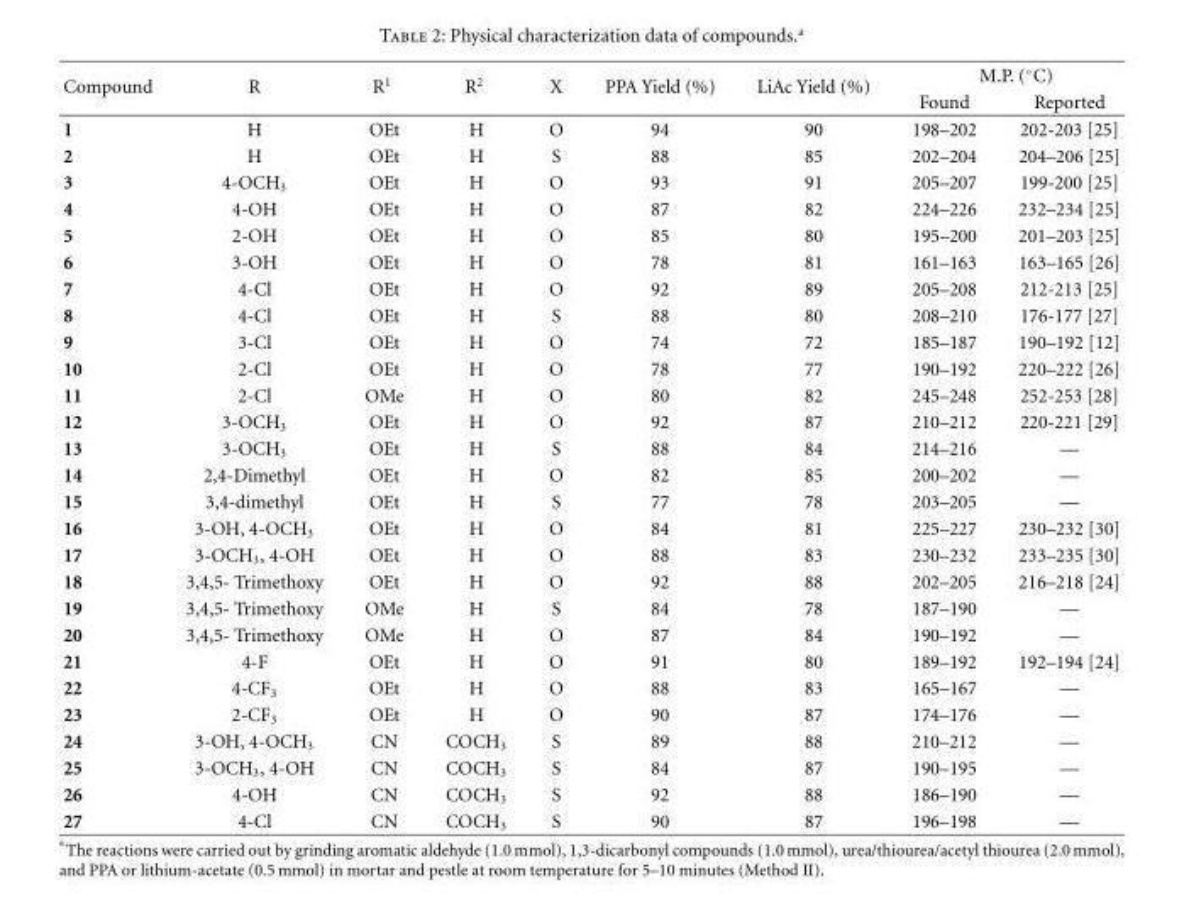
<table><thead><tr><td rowspan="2">Compound</td><td rowspan="2">R</td><td rowspan="2">R<sup>1</sup></td><td rowspan="2">R<sup>2</sup></td><td rowspan="2">X</td><td rowspan="2">PPA Yield (%)</td><td rowspan="2">LiAc Yield (%)</td><td colspan="2">M.P. (◦C)</td></tr><tr><td>Found</td><td>Reported</td></tr></thead><tbody><tr><td>1</td><td>H</td><td>OEt</td><td>H</td><td>O</td><td>94</td><td>90</td><td>198–202</td><td>202-203 [25]</td></tr><tr><td>2</td><td>H</td><td>OEt</td><td>H</td><td>S</td><td>88</td><td>85</td><td>202–204</td><td>204–206 [25]</td></tr><tr><td>3</td><td>4-OCH<sub>3</sub></td><td>OEt</td><td>H</td><td>O</td><td>93</td><td>91</td><td>205–207</td><td>199-200 [25]</td></tr><tr><td>4</td><td>4-OH</td><td>OEt</td><td>H</td><td>O</td><td>87</td><td>82</td><td>224–226</td><td>232–234 [25]</td></tr><tr><td>5</td><td>2-OH</td><td>OEt</td><td>H</td><td>O</td><td>85</td><td>80</td><td>195–200</td><td>201–203 [25]</td></tr><tr><td>6</td><td>3-OH</td><td>OEt</td><td>H</td><td>O</td><td>78</td><td>81</td><td>161–163</td><td>163–165 [26]</td></tr><tr><td>7</td><td>4-Cl</td><td>OEt</td><td>H</td><td>O</td><td>92</td><td>89</td><td>205–208</td><td>212-213 [25]</td></tr><tr><td>8</td><td>4-Cl</td><td>OEt</td><td>H</td><td>S</td><td>88</td><td>80</td><td>208–210</td><td>176-177 [27]</td></tr><tr><td>9</td><td>3-Cl</td><td>OEt</td><td>H</td><td>O</td><td>74</td><td>72</td><td>185–187</td><td>190–192 [12]</td></tr><tr><td>10</td><td>2-Cl</td><td>OEt</td><td>H</td><td>O</td><td>78</td><td>77</td><td>190–192</td><td>220–222 [26]</td></tr><tr><td>11</td><td>2-Cl</td><td>OMe</td><td>H</td><td>O</td><td>80</td><td>82</td><td>245–248</td><td>252-253 [28]</td></tr><tr><td>12</td><td>3-OCH<sub>3</sub></td><td>OEt</td><td>H</td><td>O</td><td>92</td><td>87</td><td>210–212</td><td>220-221 [29]</td></tr><tr><td>13</td><td>3-OCH<sub>3</sub></td><td>OEt</td><td>H</td><td>S</td><td>88</td><td>84</td><td>214–216</td><td>—</td></tr><tr><td>14</td><td>2,4-Dimethyl</td><td>OEt</td><td>H</td><td>O</td><td>82</td><td>85</td><td>200–202</td><td>—</td></tr><tr><td>15</td><td>3,4-dimethyl</td><td>OEt</td><td>H</td><td>S</td><td>77</td><td>78</td><td>203–205</td><td>—</td></tr><tr><td>16</td><td>3-OH, 4-OCH<sub>3</sub></td><td>OEt</td><td>H</td><td>O</td><td>84</td><td>81</td><td>225–227</td><td>230–232 [30]</td></tr><tr><td>17</td><td>3-OCH<sub>3</sub>, 4-OH</td><td>OEt</td><td>H</td><td>O</td><td>88</td><td>83</td><td>230–232</td><td>233–235 [30]</td></tr><tr><td>18</td><td>3,4,5- Trimethoxy</td><td>OEt</td><td>H</td><td>O</td><td>92</td><td>88</td><td>202–205</td><td>216–218 [24]</td></tr><tr><td>19</td><td>3,4,5- Trimethoxy</td><td>OMe</td><td>H</td><td>S</td><td>84</td><td>78</td><td>187–190</td><td>—</td></tr><tr><td>20</td><td>3,4,5- Trimethoxy</td><td>OMe</td><td>H</td><td>O</td><td>87</td><td>84</td><td>190–192</td><td>—</td></tr><tr><td>21</td><td>4-F</td><td>OEt</td><td>H</td><td>O</td><td>91</td><td>80</td><td>189–192</td><td>192–194 [24]</td></tr><tr><td>22</td><td>4-CF<sub>3</sub></td><td>OEt</td><td>H</td><td>O</td><td>88</td><td>83</td><td>165–167</td><td>—</td></tr><tr><td>23</td><td>2-CF<sub>3</sub></td><td>OEt</td><td>H</td><td>O</td><td>90</td><td>87</td><td>174–176</td><td>—</td></tr><tr><td>24</td><td>3-OH, 4-OCH<sub>3</sub></td><td>CN</td><td>COCH<sub>3</sub></td><td>S</td><td>89</td><td>88</td><td>210–212</td><td>—</td></tr><tr><td>25</td><td>3-OCH<sub>3</sub>, 4-OH</td><td>CN</td><td>COCH<sub>3</sub></td><td>S</td><td>84</td><td>87</td><td>190–195</td><td>—</td></tr><tr><td>26</td><td>4-OH</td><td>CN</td><td>COCH<sub>3</sub></td><td>S</td><td>92</td><td>88</td><td>186–190</td><td>—</td></tr><tr><td>27</td><td>4-Cl</td><td>CN</td><td>COCH<sub>3</sub></td><td>S</td><td>90</td><td>87</td><td>196–198</td><td>—</td></tr></tbody></table>